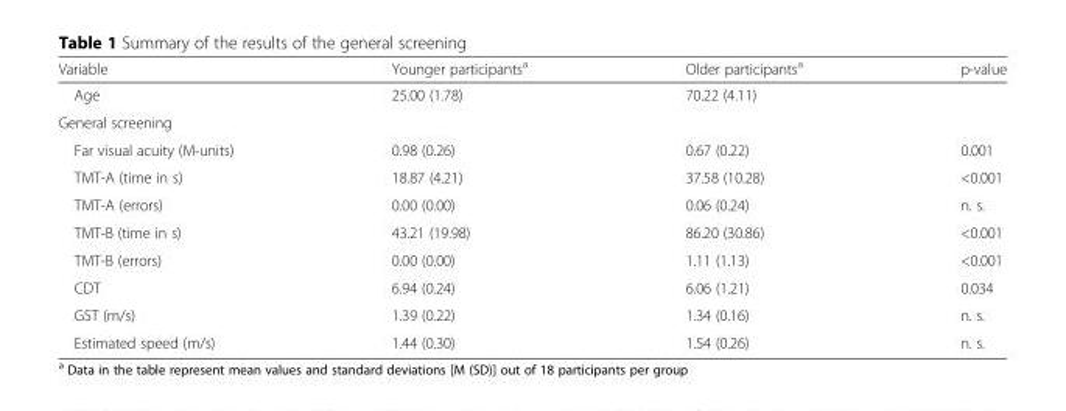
<table><thead><tr><td>Variable</td><td>Younger participants<sup>a</sup></td><td>Older participants<sup>a</sup></td><td>p-value</td></tr></thead><tbody><tr><td>Age</td><td>25.00 (1.78)</td><td>70.22 (4.11)</td><td></td></tr><tr><td colspan="4">General screening</td></tr><tr><td>Far visual acuity (M-units)</td><td>0.98 (0.26)</td><td>0.67 (0.22)</td><td>0.001</td></tr><tr><td>TMT-A (time in s)</td><td>18.87 (4.21)</td><td>37.58 (10.28)</td><td>&lt;0.001</td></tr><tr><td>TMT-A (errors)</td><td>0.00 (0.00)</td><td>0.06 (0.24)</td><td>n. s.</td></tr><tr><td>TMT-B (time in s)</td><td>43.21 (19.98)</td><td>86.20 (30.86)</td><td>&lt;0.001</td></tr><tr><td>TMT-B (errors)</td><td>0.00 (0.00)</td><td>1.11 (1.13)</td><td>&lt;0.001</td></tr><tr><td>CDT</td><td>6.94 (0.24)</td><td>6.06 (1.21)</td><td>0.034</td></tr><tr><td>GST (m/s)</td><td>1.39 (0.22)</td><td>1.34 (0.16)</td><td>n. s.</td></tr><tr><td>Estimated speed (m/s)</td><td>1.44 (0.30)</td><td>1.54 (0.26)</td><td>n. s.</td></tr></tbody></table>